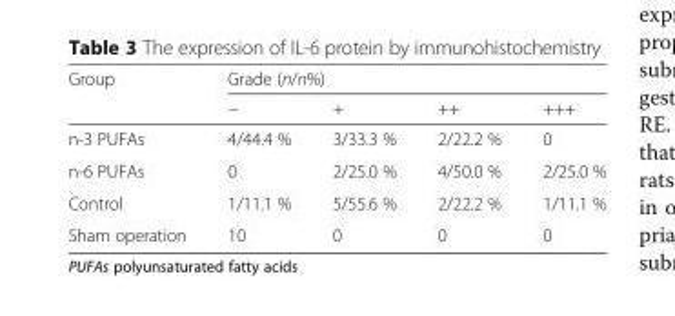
<table><thead><tr><td rowspan="2">Group</td><td colspan="4">Grade (n/n%)</td></tr><tr><td>−</td><td>+</td><td>++</td><td>+++</td></tr></thead><tbody><tr><td>n-3 PUFAs</td><td>4/44.4 %</td><td>3/33.3 %</td><td>2/22.2 %</td><td>0</td></tr><tr><td>n-6 PUFAs</td><td>0</td><td>2/25.0 %</td><td>4/50.0 %</td><td>2/25.0 %</td></tr><tr><td>Control</td><td>1/11.1 %</td><td>5/55.6 %</td><td>2/22.2 %</td><td>1/11.1 %</td></tr><tr><td>Sham operation</td><td>10</td><td>0</td><td>0</td><td>0</td></tr></tbody></table>